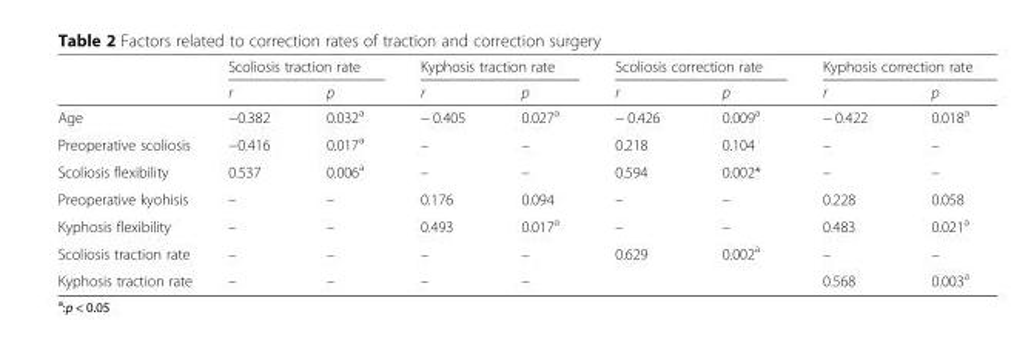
<table><thead><tr><td rowspan="2"></td><td colspan="2">Scoliosis traction rate</td><td colspan="2">Kyphosis traction rate</td><td colspan="2">Scoliosis correction rate</td><td colspan="2">Kyphosis correction rate</td></tr><tr><td>r</td><td>p</td><td>r</td><td>p</td><td>r</td><td>p</td><td>r</td><td>p</td></tr></thead><tbody><tr><td>Age</td><td>−0.382</td><td>0.032<sup>a</sup></td><td>− 0.405</td><td>0.027<sup>a</sup></td><td>− 0.426</td><td>0.009<sup>a</sup></td><td>− 0.422</td><td>0.018<sup>a</sup></td></tr><tr><td>Preoperative scoliosis</td><td>−0.416</td><td>0.017<sup>a</sup></td><td>–</td><td>–</td><td>0.218</td><td>0.104</td><td>–</td><td>–</td></tr><tr><td>Scoliosis flexibility</td><td>0.537</td><td>0.006<sup>a</sup></td><td>–</td><td>–</td><td>0.594</td><td>0.002*</td><td>–</td><td>–</td></tr><tr><td>Preoperative kyohisis</td><td>–</td><td>–</td><td>0.176</td><td>0.094</td><td>–</td><td>–</td><td>0.228</td><td>0.058</td></tr><tr><td>Kyphosis flexibility</td><td>–</td><td>–</td><td>0.493</td><td>0.017<sup>a</sup></td><td>–</td><td>–</td><td>0.483</td><td>0.021<sup>a</sup></td></tr><tr><td>Scoliosis traction rate</td><td>–</td><td>–</td><td>–</td><td>–</td><td>0.629</td><td>0.002<sup>a</sup></td><td>–</td><td>–</td></tr><tr><td>Kyphosis traction rate</td><td>–</td><td>–</td><td>–</td><td>–</td><td></td><td></td><td>0.568</td><td>0.003<sup>a</sup></td></tr></tbody></table>